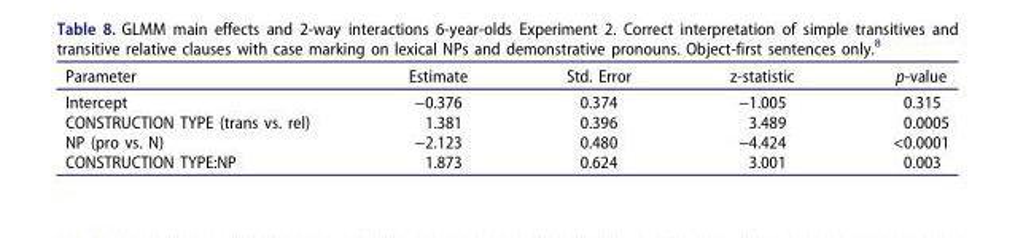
<table><thead><tr><td>Parameter</td><td>Estimate</td><td>Std. Error</td><td>z-statistic</td><td>p-value</td></tr></thead><tbody><tr><td>Intercept</td><td>−0.376</td><td>0.374</td><td>−1.005</td><td>0.315</td></tr><tr><td>CONSTRUCTION TYPE (trans vs. rel)</td><td>1.381</td><td>0.396</td><td>3.489</td><td>0.0005</td></tr><tr><td>NP (pro vs. N)</td><td>−2.123</td><td>0.480</td><td>−4.424</td><td>&lt;0.0001</td></tr><tr><td>CONSTRUCTION TYPE:NP</td><td>1.873</td><td>0.624</td><td>3.001</td><td>0.003</td></tr></tbody></table>